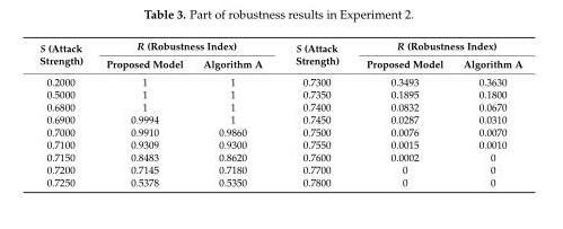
<table><thead><tr><td rowspan="2">S (Attack Strength)</td><td colspan="2">R (Robustness Index)</td><td rowspan="2">S (Attack Strength)</td><td colspan="2">R (Robustness Index)</td></tr><tr><td>Proposed Model</td><td>Algorithm A</td><td>Proposed Model</td><td>Algorithm A</td></tr></thead><tbody><tr><td>0.2000</td><td>1</td><td>1</td><td>0.7300</td><td>0.3493</td><td>0.3630</td></tr><tr><td>0.5000</td><td>1</td><td>1</td><td>0.7350</td><td>0.1895</td><td>0.1800</td></tr><tr><td>0.6800</td><td>1</td><td>1</td><td>0.7400</td><td>0.0832</td><td>0.0670</td></tr><tr><td>0.6900</td><td>0.9994</td><td>1</td><td>0.7450</td><td>0.0287</td><td>0.0310</td></tr><tr><td>0.7000</td><td>0.9910</td><td>0.9860</td><td>0.7500</td><td>0.0076</td><td>0.0070</td></tr><tr><td>0.7100</td><td>0.9309</td><td>0.9300</td><td>0.7550</td><td>0.0015</td><td>0.0010</td></tr><tr><td>0.7150</td><td>0.8483</td><td>0.8620</td><td>0.7600</td><td>0.0002</td><td>0</td></tr><tr><td>0.7200</td><td>0.7145</td><td>0.7180</td><td>0.7700</td><td>0</td><td>0</td></tr><tr><td>0.7250</td><td>0.5378</td><td>0.5350</td><td>0.7800</td><td>0</td><td>0</td></tr></tbody></table>